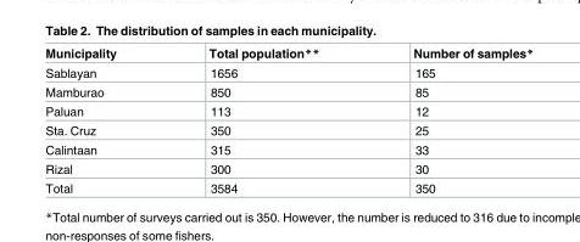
<table><thead><tr><td>Municipality</td><td>Total population**</td><td>Number of samples*</td></tr></thead><tbody><tr><td>Sablayan</td><td>1656</td><td>165</td></tr><tr><td>Mamburao</td><td>850</td><td>85</td></tr><tr><td>Paluan</td><td>113</td><td>12</td></tr><tr><td>Sta. Cruz</td><td>350</td><td>25</td></tr><tr><td>Calintaan</td><td>315</td><td>33</td></tr><tr><td>Rizal</td><td>300</td><td>30</td></tr><tr><td>Total</td><td>3584</td><td>350</td></tr></tbody></table>